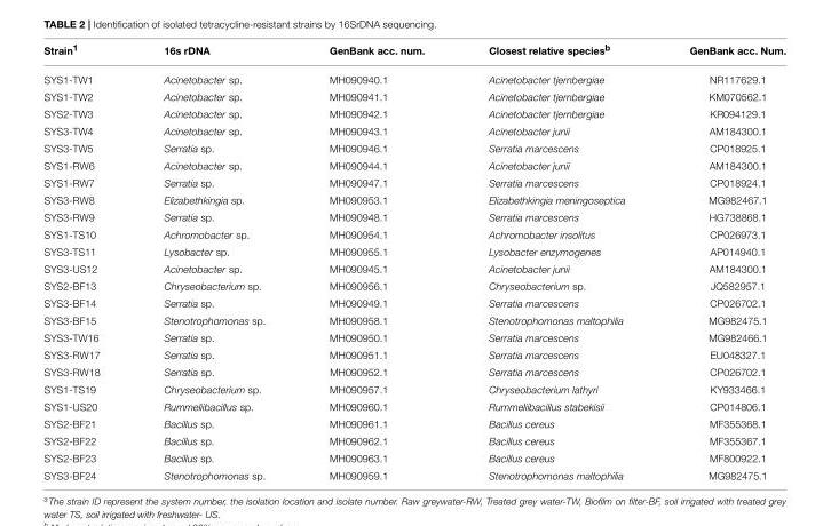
<table><thead><tr><td>Strain<sup>1</sup></td><td>16s rDNA</td><td>GenBank acc. num.</td><td>Closest relative species<sup>b</sup></td><td>GenBank acc. Num.</td></tr></thead><tbody><tr><td>SYS1-TW1</td><td>Acinetobacter sp.</td><td>MH090940.1</td><td>Acinetobacter tjernbergiae</td><td>NR117629.1</td></tr><tr><td>SYS1-TW2</td><td>Acinetobacter sp.</td><td>MH090941.1</td><td>Acinetobacter tjernbergiae</td><td>KM070562.1</td></tr><tr><td>SYS2-TW3</td><td>Acinetobacter sp.</td><td>MH090942.1</td><td>Acinetobacter tjernbergiae</td><td>KR094129.1</td></tr><tr><td>SYS3-TW4</td><td>Acinetobacter sp.</td><td>MH090943.1</td><td>Acinetobacter junii</td><td>AM184300.1</td></tr><tr><td>SYS3-TW5</td><td>Serratia sp.</td><td>MH090946.1</td><td>Serratia marcescens</td><td>CP018925.1</td></tr><tr><td>SYS1-RW6</td><td>Acinetobacter sp.</td><td>MH090944.1</td><td>Acinetobacter junii</td><td>AM184300.1</td></tr><tr><td>SYS1-RW7</td><td>Serratia sp.</td><td>MH090947.1</td><td>Serratia marcescens</td><td>CP018924.1</td></tr><tr><td>SYS3-RW8</td><td>Elizabethkingia sp.</td><td>MH090953.1</td><td>Elizabethkingia meningoseptica</td><td>MG982467.1</td></tr><tr><td>SYS3-RW9</td><td>Serratia sp.</td><td>MH090948.1</td><td>Serratia marcescens</td><td>HG738868.1</td></tr><tr><td>SYS1-TS10</td><td>Achromobacter sp.</td><td>MH090954.1</td><td>Achromobacter insolitus</td><td>CP026973.1</td></tr><tr><td>SYS3-TS11</td><td>Lysobacter sp.</td><td>MH090955.1</td><td>Lysobacter enzymogenes</td><td>AP014940.1</td></tr><tr><td>SYS3-US12</td><td>Acinetobacter sp.</td><td>MH090945.1</td><td>Acinetobacter junii</td><td>AM184300.1</td></tr><tr><td>SYS2-BF13</td><td>Chryseobacterium sp.</td><td>MH090956.1</td><td>Chryseobacterium sp.</td><td>JQ582957.1</td></tr><tr><td>SYS3-BF14</td><td>Serratia sp.</td><td>MH090949.1</td><td>Serratia marcescens</td><td>CP026702.1</td></tr><tr><td>SYS3-BF15</td><td>Stenotrophomonas sp.</td><td>MH090958.1</td><td>Stenotrophomonas maltophilia</td><td>MG982475.1</td></tr><tr><td>SYS3-TW16</td><td>Serratia sp.</td><td>MH090950.1</td><td>Serratia marcescens</td><td>MG982466.1</td></tr><tr><td>SYS3-RW17</td><td>Serratia sp.</td><td>MH090951.1</td><td>Serratia marcescens</td><td>EU048327.1</td></tr><tr><td>SYS3-RW18</td><td>Serratia sp.</td><td>MH090952.1</td><td>Serratia marcescens</td><td>CP026702.1</td></tr><tr><td>SYS1-TS19</td><td>Chryseobacterium sp.</td><td>MH090957.1</td><td>Chryseobacterium lathyri</td><td>KY933466.1</td></tr><tr><td>SYS1-US20</td><td>Rummeliibacillus sp.</td><td>MH090960.1</td><td>Rummeliibacillus stabekisii</td><td>CP014806.1</td></tr><tr><td>SYS2-BF21</td><td>Bacillus sp.</td><td>MH090961.1</td><td>Bacillus cereus</td><td>MF355368.1</td></tr><tr><td>SYS2-BF22</td><td>Bacillus sp.</td><td>MH090962.1</td><td>Bacillus cereus</td><td>MF355367.1</td></tr><tr><td>SYS2-BF23</td><td>Bacillus sp.</td><td>MH090963.1</td><td>Bacillus cereus</td><td>MF800922.1</td></tr><tr><td>SYS3-BF24</td><td>Stenotrophomonas sp.</td><td>MH090959.1</td><td>Stenotrophomonas maltophilia</td><td>MG982475.1</td></tr></tbody></table>